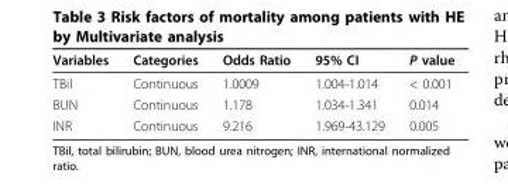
<table><thead><tr><td>Variables</td><td>Categories</td><td>Odds Ratio</td><td>95% CI</td><td>P value</td></tr></thead><tbody><tr><td>TBil</td><td>Continuous</td><td>1.0009</td><td>1.004-1.014</td><td>&lt; 0.001</td></tr><tr><td>BUN</td><td>Continuous</td><td>1.178</td><td>1.034-1.341</td><td>0.014</td></tr><tr><td>INR</td><td>Continuous</td><td>9.216</td><td>1.969-43.129</td><td>0.005</td></tr></tbody></table>